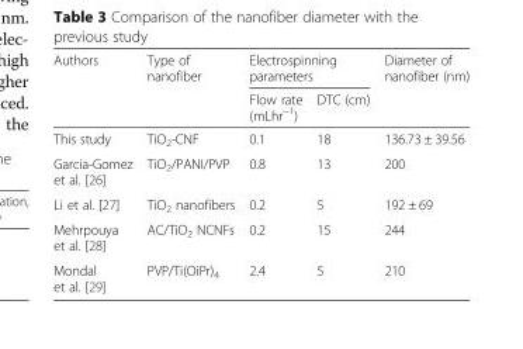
<table><thead><tr><td rowspan="2">Authors</td><td rowspan="2">Type of nanofiber</td><td colspan="2">Electrospinning parameters</td><td rowspan="2">Diameter of nanofiber (nm)</td></tr><tr><td>Flow rate (mLhr<sup>−1</sup>)</td><td>DTC (cm)</td></tr></thead><tbody><tr><td>This study</td><td>TiO<sub>2</sub>-CNF</td><td>0.1</td><td>18</td><td>136.73 ± 39.56</td></tr><tr><td>Garcia-Gomez et al. [26]</td><td>TiO<sub>2</sub>/PANI/PVP</td><td>0.8</td><td>13</td><td>200</td></tr><tr><td>Li et al. [27]</td><td>TiO<sub>2</sub> nanofibers</td><td>0.2</td><td>5</td><td>192 ± 69</td></tr><tr><td>Mehrpouya et al. [28]</td><td>AC/TiO<sub>2</sub> NCNFs</td><td>0.2</td><td>15</td><td>244</td></tr><tr><td>Mondal et al. [29]</td><td>PVP/Ti(OiPr)<sub>4</sub></td><td>2.4</td><td>5</td><td>210</td></tr></tbody></table>